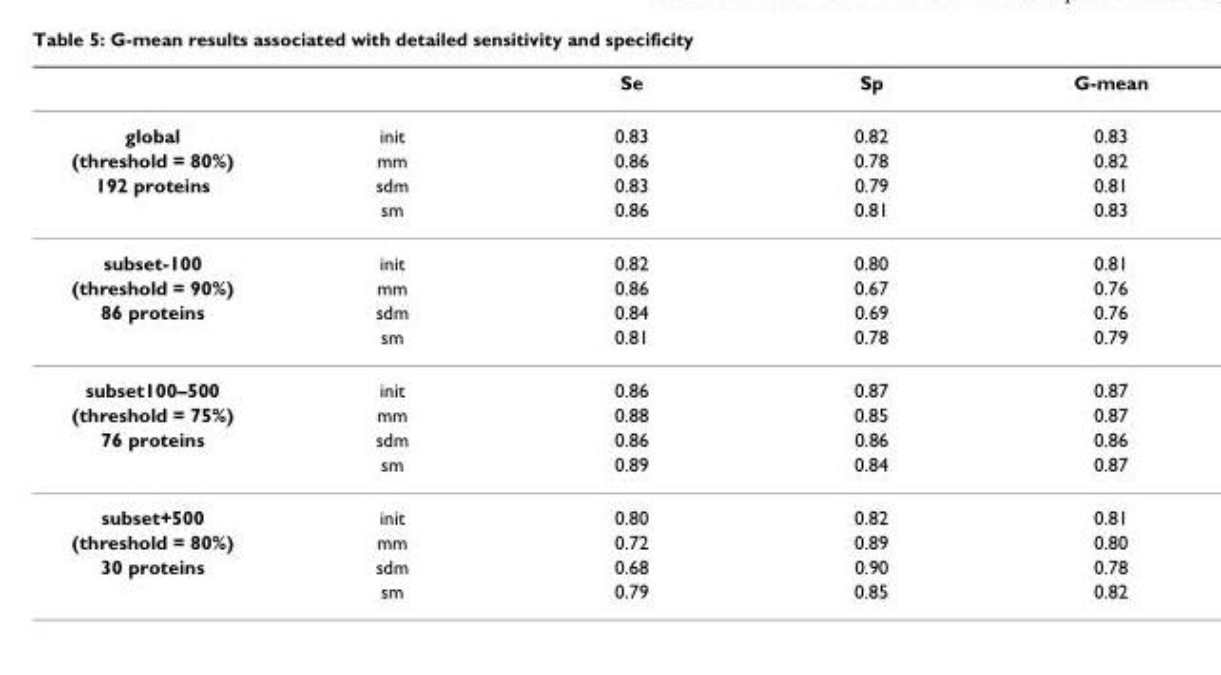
<table><thead><tr><td></td><td></td><td>Se</td><td>Sp</td><td>G-mean</td></tr></thead><tbody><tr><td>global</td><td>init</td><td>0.83</td><td>0.82</td><td>0.83</td></tr><tr><td>(threshold = 80%)</td><td>mm</td><td>0.86</td><td>0.78</td><td>0.82</td></tr><tr><td rowspan="2">192 proteins</td><td>sdm</td><td>0.83</td><td>0.79</td><td>0.81</td></tr><tr><td>sm</td><td>0.86</td><td>0.81</td><td>0.83</td></tr><tr><td>subset-100</td><td>init</td><td>0.82</td><td>0.80</td><td>0.81</td></tr><tr><td>(threshold = 90%)</td><td>mm</td><td>0.86</td><td>0.67</td><td>0.76</td></tr><tr><td rowspan="2">86 proteins</td><td>sdm</td><td>0.84</td><td>0.69</td><td>0.76</td></tr><tr><td>sm</td><td>0.81</td><td>0.78</td><td>0.79</td></tr><tr><td>subset100–500</td><td>init</td><td>0.86</td><td>0.87</td><td>0.87</td></tr><tr><td>(threshold = 75%)</td><td>mm</td><td>0.88</td><td>0.85</td><td>0.87</td></tr><tr><td rowspan="2">76 proteins</td><td>sdm</td><td>0.86</td><td>0.86</td><td>0.86</td></tr><tr><td>sm</td><td>0.89</td><td>0.84</td><td>0.87</td></tr><tr><td>subset+500</td><td>init</td><td>0.80</td><td>0.82</td><td>0.81</td></tr><tr><td>(threshold = 80%)</td><td>mm</td><td>0.72</td><td>0.89</td><td>0.80</td></tr><tr><td rowspan="2">30 proteins</td><td>sdm</td><td>0.68</td><td>0.90</td><td>0.78</td></tr><tr><td>sm</td><td>0.79</td><td>0.85</td><td>0.82</td></tr></tbody></table>